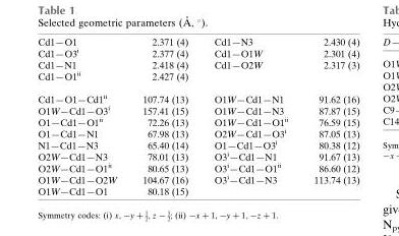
<table><tbody><tr><td>Cd1—O1</td><td>2.371 (4)</td><td>Cd1—N3</td><td>2.430 (4)</td></tr><tr><td>Cd1—O3<sup>i</sup></td><td>2.377 (4)</td><td>Cd1—O1W</td><td>2.301 (4)</td></tr><tr><td>Cd1—N1</td><td>2.418 (4)</td><td>Cd1—O2W</td><td>2.317 (3)</td></tr><tr><td>Cd1—O1<sup>ii</sup></td><td>2.427 (4)</td><td></td><td></td></tr><tr><td>Cd1—O1—Cd1<sup>ii</sup></td><td>107.74 (13)</td><td>O1W—Cd1—N1</td><td>91.62 (16)</td></tr><tr><td>O1W—Cd1—O3<sup>i</sup></td><td>157.41 (15)</td><td>O1W—Cd1—N3</td><td>87.87 (15)</td></tr><tr><td>O1—Cd1—O1<sup>ii</sup></td><td>72.26 (13)</td><td>O1W—Cd1—O1<sup>ii</sup></td><td>76.59 (15)</td></tr><tr><td>O1—Cd1—N1</td><td>67.98 (13)</td><td>O2W—Cd1—O3<sup>i</sup></td><td>87.05 (13)</td></tr><tr><td>N1—Cd1—N3</td><td>65.40 (14)</td><td>O1—Cd1—O3<sup>i</sup></td><td>80.38 (12)</td></tr><tr><td>O2W—Cd1—N3</td><td>78.01 (13)</td><td>O3<sup>i</sup>—Cd1—N1</td><td>91.67 (13)</td></tr><tr><td>O2W—Cd1—O1<sup>ii</sup></td><td>80.65 (13)</td><td>O3<sup>i</sup>—Cd1—O1<sup>ii</sup></td><td>86.60 (12)</td></tr><tr><td>O1W—Cd1—O2W</td><td>104.67 (16)</td><td>O3<sup>i</sup>—Cd1—N3</td><td>113.74 (13)</td></tr><tr><td>O1W—Cd1—O1</td><td>80.18 (15)</td><td></td><td></td></tr></tbody></table>